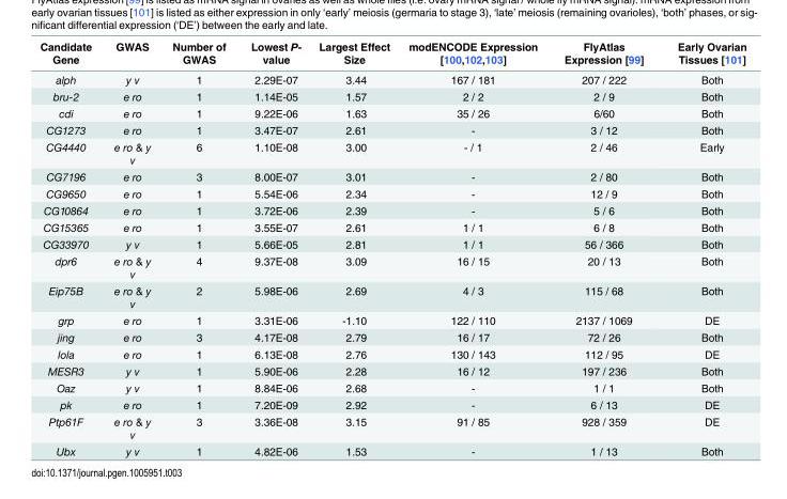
<table><thead><tr><td>Candidate Gene</td><td>GWAS</td><td>Number of GWAS</td><td>Lowest P- value</td><td>Largest Effect Size</td><td>modENCODE Expression [100,102,103]</td><td>FlyAtlas Expression [99]</td><td>Early Ovarian Tissues [101]</td></tr></thead><tbody><tr><td>alph</td><td>y v</td><td>1</td><td>2.29E-07</td><td>3.44</td><td>167 / 181</td><td>207 / 222</td><td>Both</td></tr><tr><td>bru-2</td><td>e ro</td><td>1</td><td>1.14E-05</td><td>1.57</td><td>2 / 2</td><td>2 / 9</td><td>Both</td></tr><tr><td>cdi</td><td>e ro</td><td>1</td><td>9.22E-06</td><td>1.63</td><td>35 / 26</td><td>6/60</td><td>Both</td></tr><tr><td>CG1273</td><td>e ro</td><td>1</td><td>3.47E-07</td><td>2.61</td><td>-</td><td>3 / 12</td><td>Both</td></tr><tr><td>CG4440</td><td>e ro &amp; y v</td><td>6</td><td>1.10E-08</td><td>3.00</td><td>- / 1</td><td>2 / 46</td><td>Early</td></tr><tr><td>CG7196</td><td>e ro</td><td>3</td><td>8.00E-07</td><td>3.01</td><td>-</td><td>2 / 80</td><td>Both</td></tr><tr><td>CG9650</td><td>e ro</td><td>1</td><td>5.54E-06</td><td>2.34</td><td>-</td><td>12 / 9</td><td>Both</td></tr><tr><td>CG10864</td><td>e ro</td><td>1</td><td>3.72E-06</td><td>2.39</td><td>-</td><td>5 / 6</td><td>Both</td></tr><tr><td>CG15365</td><td>e ro</td><td>1</td><td>3.55E-07</td><td>2.61</td><td>1 / 1</td><td>6 / 8</td><td>Both</td></tr><tr><td>CG33970</td><td>y v</td><td>1</td><td>5.66E-05</td><td>2.81</td><td>1 / 1</td><td>56 / 366</td><td>Both</td></tr><tr><td>dpr6</td><td>e ro &amp; y v</td><td>4</td><td>9.37E-08</td><td>3.09</td><td>16 / 15</td><td>20 / 13</td><td>Both</td></tr><tr><td>Eip75B</td><td>e ro &amp; y v</td><td>2</td><td>5.98E-06</td><td>2.69</td><td>4 / 3</td><td>115 / 68</td><td>Both</td></tr><tr><td>grp</td><td>e ro</td><td>1</td><td>3.31E-06</td><td>-1.10</td><td>122 / 110</td><td>2137 / 1069</td><td>DE</td></tr><tr><td>jing</td><td>e ro</td><td>3</td><td>4.17E-08</td><td>2.79</td><td>16 / 17</td><td>72 / 26</td><td>Both</td></tr><tr><td>lola</td><td>e ro</td><td>1</td><td>6.13E-08</td><td>2.76</td><td>130 / 143</td><td>112 / 95</td><td>DE</td></tr><tr><td>MESR3</td><td>y v</td><td>1</td><td>5.90E-06</td><td>2.28</td><td>16 / 12</td><td>197 / 236</td><td>Both</td></tr><tr><td>Oaz</td><td>y v</td><td>1</td><td>8.84E-06</td><td>2.68</td><td>-</td><td>1 / 1</td><td>Both</td></tr><tr><td>pk</td><td>e ro</td><td>1</td><td>7.20E-09</td><td>2.92</td><td>-</td><td>6 / 13</td><td>DE</td></tr><tr><td>Ptp61F</td><td>e ro &amp; y v</td><td>3</td><td>3.36E-08</td><td>3.15</td><td>91 / 85</td><td>928 / 359</td><td>DE</td></tr><tr><td>Ubx</td><td>y v</td><td>1</td><td>4.82E-06</td><td>1.53</td><td>-</td><td>1 / 13</td><td>Both</td></tr></tbody></table>